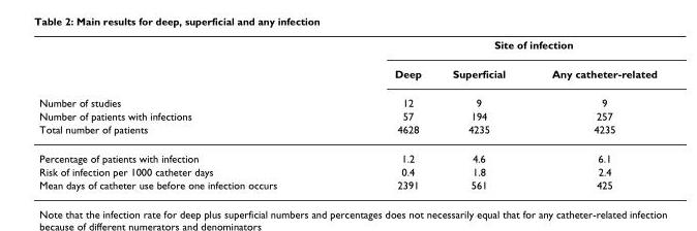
<table><thead><tr><td rowspan="5">Number of studies Number of patients with infections Total number of patients</td><td colspan="3">Site of infection</td></tr><tr><td rowspan="4">Deep 12 57 4628</td><td rowspan="4">Superficial 9 194 4235</td><td rowspan="4">Any catheter-related 9 257 4235</td></tr><tr></tr><tr></tr><tr></tr></thead><tbody><tr><td>Percentage of patients with infection</td><td>1.2</td><td>4.6</td><td>6.1</td></tr><tr><td>Risk of infection per 1000 catheter days</td><td>0.4</td><td>1.8</td><td>2.4</td></tr><tr><td>Mean days of catheter use before one infection occurs</td><td>2391</td><td>561</td><td>425</td></tr></tbody></table>